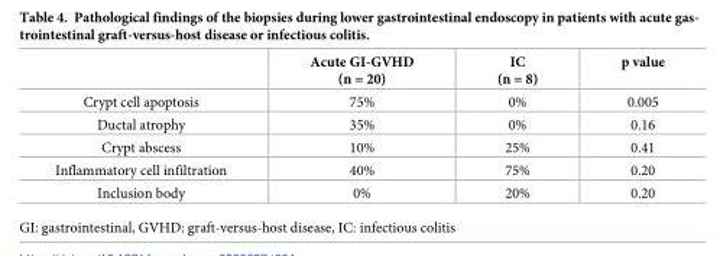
<table><thead><tr><td></td><td>Acute GI-GVHD (n = 20)</td><td>IC (n = 8)</td><td>p value</td></tr></thead><tbody><tr><td>Crypt cell apoptosis</td><td>75%</td><td>0%</td><td>0.005</td></tr><tr><td>Ductal atrophy</td><td>35%</td><td>0%</td><td>0.16</td></tr><tr><td>Crypt abscess</td><td>10%</td><td>25%</td><td>0.41</td></tr><tr><td>Inflammatory cell infiltration</td><td>40%</td><td>75%</td><td>0.20</td></tr><tr><td>Inclusion body</td><td>0%</td><td>20%</td><td>0.20</td></tr></tbody></table>